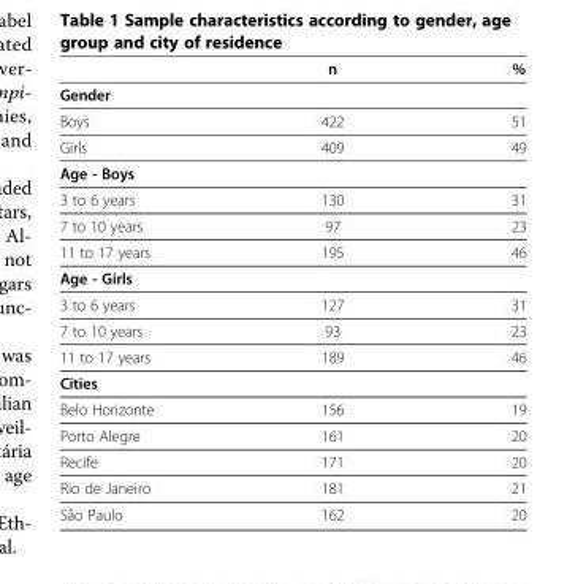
<table><thead><tr><td></td><td>n</td><td>%</td></tr></thead><tbody><tr><td colspan="3">Gender</td></tr><tr><td>Boys</td><td>422</td><td>51</td></tr><tr><td>Girls</td><td>409</td><td>49</td></tr><tr><td colspan="3">Age - Boys</td></tr><tr><td>3 to 6 years</td><td>130</td><td>31</td></tr><tr><td>7 to 10 years</td><td>97</td><td>23</td></tr><tr><td>11 to 17 years</td><td>195</td><td>46</td></tr><tr><td colspan="3">Age - Girls</td></tr><tr><td>3 to 6 years</td><td>127</td><td>31</td></tr><tr><td>7 to 10 years</td><td>93</td><td>23</td></tr><tr><td>11 to 17 years</td><td>189</td><td>46</td></tr><tr><td colspan="3">Cities</td></tr><tr><td>Belo Horizonte</td><td>156</td><td>19</td></tr><tr><td>Porto Alegre</td><td>161</td><td>20</td></tr><tr><td>Recife</td><td>171</td><td>20</td></tr><tr><td>Rio de Janeiro</td><td>181</td><td>21</td></tr><tr><td>São Paulo</td><td>162</td><td>20</td></tr></tbody></table>